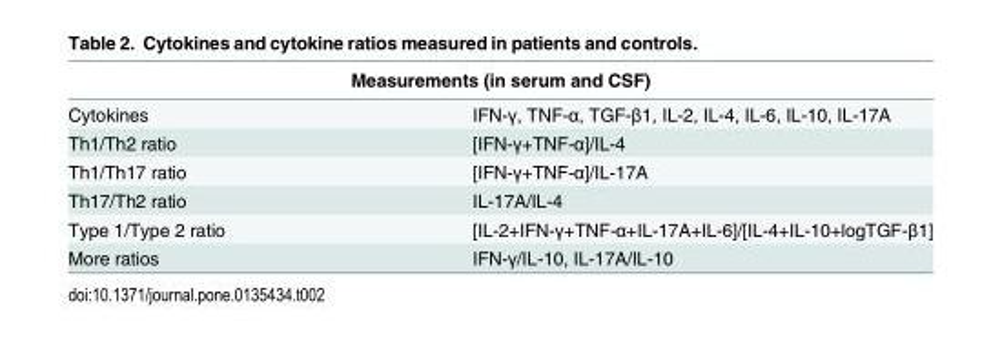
<table><thead><tr><td colspan="2">Measurements (in serum and CSF)</td></tr><tr><td>Cytokines</td><td>IFN-γ, TNF-α, TGF-β1, IL-2, IL-4, IL-6, IL-10, IL-17A</td></tr></thead><tbody><tr><td>Th1/Th2 ratio</td><td>[IFN-γ+TNF-α]/IL-4</td></tr><tr><td>Th1/Th17 ratio</td><td>[IFN-γ+TNF-α]/IL-17A</td></tr><tr><td>Th17/Th2 ratio</td><td>IL-17A/IL-4</td></tr><tr><td>Type 1/Type 2 ratio</td><td>[IL-2+IFN-γ+TNF-α+IL-17A+IL-6]/[IL-4+IL-10+logTGF-β1]</td></tr><tr><td>More ratios</td><td>IFN-γ/IL-10, IL-17A/IL-10</td></tr></tbody></table>